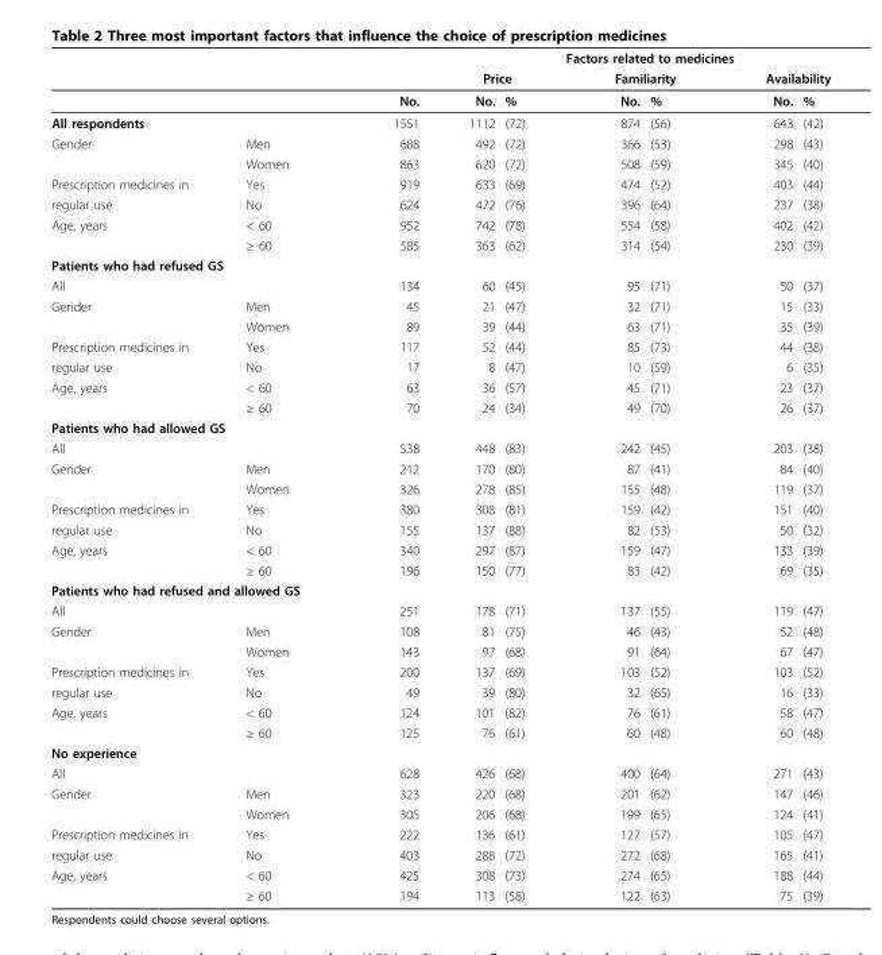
<table><thead><tr><td rowspan="3"></td><td rowspan="3"></td><td rowspan="3">No.</td><td colspan="6">Factors related to medicines</td></tr><tr><td colspan="2">Price</td><td colspan="2">Familiarity</td><td colspan="2">Availability</td></tr><tr><td>No.</td><td>%</td><td>No.</td><td>%</td><td>No.</td><td>%</td></tr></thead><tbody><tr><td>All respondents</td><td></td><td>1551</td><td>1112</td><td>(72)</td><td>874</td><td>(56)</td><td>643</td><td>(42)</td></tr><tr><td rowspan="2">Gender</td><td>Men</td><td>688</td><td>492</td><td>(72)</td><td>366</td><td>(53)</td><td>298</td><td>(43)</td></tr><tr><td>Women</td><td>863</td><td>620</td><td>(72)</td><td>508</td><td>(59)</td><td>345</td><td>(40)</td></tr><tr><td>Prescription medicines in</td><td>Yes</td><td>919</td><td>633</td><td>(69)</td><td>474</td><td>(52)</td><td>403</td><td>(44)</td></tr><tr><td>regular use</td><td>No</td><td>624</td><td>472</td><td>(76)</td><td>396</td><td>(64)</td><td>237</td><td>(38)</td></tr><tr><td rowspan="2">Age, years</td><td>&lt; 60</td><td>952</td><td>742</td><td>(78)</td><td>554</td><td>(58)</td><td>402</td><td>(42)</td></tr><tr><td>≥ 60</td><td>585</td><td>363</td><td>(62)</td><td>314</td><td>(54)</td><td>230</td><td>(39)</td></tr><tr><td colspan="9">Patients who had refused GS</td></tr><tr><td>All</td><td></td><td>134</td><td>60</td><td>(45)</td><td>95</td><td>(71)</td><td>50</td><td>(37)</td></tr><tr><td rowspan="2">Gender</td><td>Men</td><td>45</td><td>21</td><td>(47)</td><td>32</td><td>(71)</td><td>15</td><td>(33)</td></tr><tr><td>Women</td><td>89</td><td>39</td><td>(44)</td><td>63</td><td>(71)</td><td>35</td><td>(39)</td></tr><tr><td>Prescription medicines in</td><td>Yes</td><td>117</td><td>52</td><td>(44)</td><td>85</td><td>(73)</td><td>44</td><td>(38)</td></tr><tr><td>regular use</td><td>No</td><td>17</td><td>8</td><td>(47)</td><td>10</td><td>(59)</td><td>6</td><td>(35)</td></tr><tr><td rowspan="2">Age, years</td><td>&lt; 60</td><td>63</td><td>36</td><td>(57)</td><td>45</td><td>(71)</td><td>23</td><td>(37)</td></tr><tr><td>≥ 60</td><td>70</td><td>24</td><td>(34)</td><td>49</td><td>(70)</td><td>26</td><td>(37)</td></tr><tr><td colspan="9">Patients who had allowed GS</td></tr><tr><td>All</td><td></td><td>538</td><td>448</td><td>(83)</td><td>242</td><td>(45)</td><td>203</td><td>(38)</td></tr><tr><td rowspan="2">Gender</td><td>Men</td><td>212</td><td>170</td><td>(80)</td><td>87</td><td>(41)</td><td>84</td><td>(40)</td></tr><tr><td>Women</td><td>326</td><td>278</td><td>(85)</td><td>155</td><td>(48)</td><td>119</td><td>(37)</td></tr><tr><td>Prescription medicines in</td><td>Yes</td><td>380</td><td>308</td><td>(81)</td><td>159</td><td>(42)</td><td>151</td><td>(40)</td></tr><tr><td>regular use</td><td>No</td><td>155</td><td>137</td><td>(88)</td><td>82</td><td>(53)</td><td>50</td><td>(32)</td></tr><tr><td rowspan="2">Age, years</td><td>&lt; 60</td><td>340</td><td>297</td><td>(87)</td><td>159</td><td>(47)</td><td>133</td><td>(39)</td></tr><tr><td>≥ 60</td><td>196</td><td>150</td><td>(77)</td><td>83</td><td>(42)</td><td>69</td><td>(35)</td></tr><tr><td colspan="9">Patients who had refused and allowed GS</td></tr><tr><td>All</td><td></td><td>251</td><td>178</td><td>(71)</td><td>137</td><td>(55)</td><td>119</td><td>(47)</td></tr><tr><td rowspan="2">Gender</td><td>Men</td><td>108</td><td>81</td><td>(75)</td><td>46</td><td>(43)</td><td>52</td><td>(48)</td></tr><tr><td>Women</td><td>143</td><td>97</td><td>(68)</td><td>91</td><td>(64)</td><td>67</td><td>(47)</td></tr><tr><td>Prescription medicines in</td><td>Yes</td><td>200</td><td>137</td><td>(69)</td><td>103</td><td>(52)</td><td>103</td><td>(52)</td></tr><tr><td>regular use</td><td>No</td><td>49</td><td>39</td><td>(80)</td><td>32</td><td>(65)</td><td>16</td><td>(33)</td></tr><tr><td rowspan="2">Age, years</td><td>&lt; 60</td><td>124</td><td>101</td><td>(82)</td><td>76</td><td>(61)</td><td>58</td><td>(47)</td></tr><tr><td>≥ 60</td><td>125</td><td>76</td><td>(61)</td><td>60</td><td>(48)</td><td>60</td><td>(48)</td></tr><tr><td colspan="9">No experience</td></tr><tr><td>All</td><td></td><td>628</td><td>426</td><td>(68)</td><td>400</td><td>(64)</td><td>271</td><td>(43)</td></tr><tr><td rowspan="2">Gender</td><td>Men</td><td>323</td><td>220</td><td>(68)</td><td>201</td><td>(62)</td><td>147</td><td>(46)</td></tr><tr><td>Women</td><td>305</td><td>206</td><td>(68)</td><td>199</td><td>(65)</td><td>124</td><td>(41)</td></tr><tr><td>Prescription medicines in</td><td>Yes</td><td>222</td><td>136</td><td>(61)</td><td>127</td><td>(57)</td><td>105</td><td>(47)</td></tr><tr><td>regular use</td><td>No</td><td>403</td><td>288</td><td>(72)</td><td>272</td><td>(68)</td><td>165</td><td>(41)</td></tr><tr><td rowspan="2">Age, years</td><td>&lt; 60</td><td>425</td><td>308</td><td>(73)</td><td>274</td><td>(65)</td><td>188</td><td>(44)</td></tr><tr><td>≥ 60</td><td>194</td><td>113</td><td>(58)</td><td>122</td><td>(63)</td><td>75</td><td>(39)</td></tr></tbody></table>